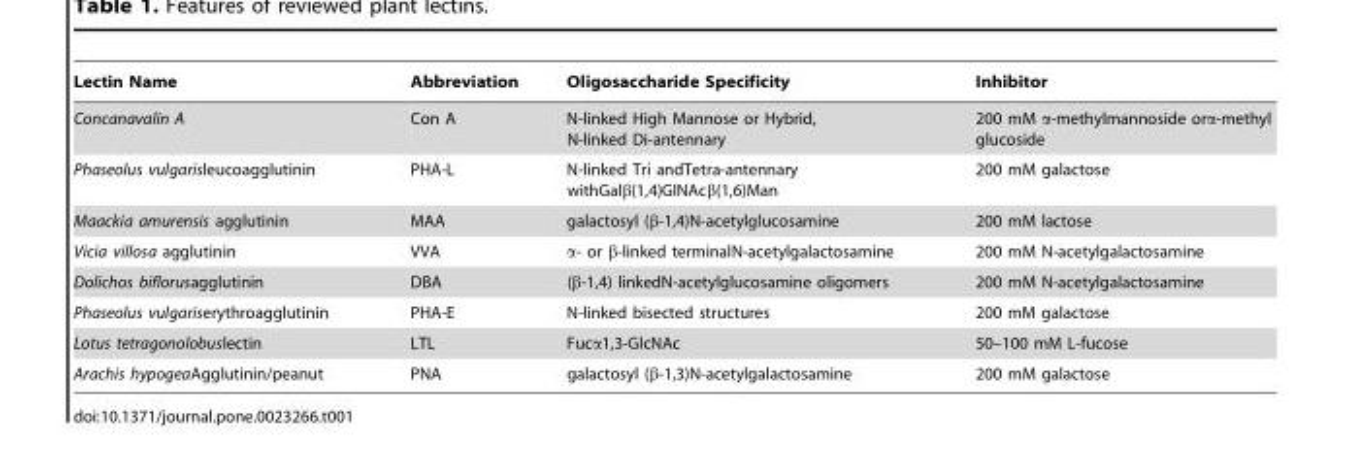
<table><thead><tr><td>Lectin Name</td><td>Abbreviation</td><td>Oligosaccharide Specificity</td><td>Inhibitor</td></tr></thead><tbody><tr><td>Concanavalin A</td><td>Con A</td><td>N-linked High Mannose or Hybrid, N-linked Di-antennary</td><td>200 mM α-methylmannoside orα-methyl glucoside</td></tr><tr><td>Phaseolus vulgarisleucoagglutinin</td><td>PHA-L</td><td>N-linked Tri andTetra-antennary withGalβ(1,4)GlNAcβ(1,6)Man</td><td>200 mM galactose</td></tr><tr><td>Maackia amurensis agglutinin</td><td>MAA</td><td>galactosyl (β-1,4)N-acetylglucosamine</td><td>200 mM lactose</td></tr><tr><td>Vicia villosa agglutinin</td><td>VVA</td><td>α- or β-linked terminalN-acetylgalactosamine</td><td>200 mM N-acetylgalactosamine</td></tr><tr><td>Dolichos biflorusagglutinin</td><td>DBA</td><td>(β-1,4) linkedN-acetylglucosamine oligomers</td><td>200 mM N-acetylgalactosamine</td></tr><tr><td>Phaseolus vulgariserythroagglutinin</td><td>PHA-E</td><td>N-linked bisected structures</td><td>200 mM galactose</td></tr><tr><td>Lotus tetragonolobuslectin</td><td>LTL</td><td>Fucα1,3-GlcNAc</td><td>50–100 mM L-fucose</td></tr><tr><td>Arachis hypogeaAgglutinin/peanut</td><td>PNA</td><td>galactosyl (β-1,3)N-acetylgalactosamine</td><td>200 mM galactose</td></tr></tbody></table>